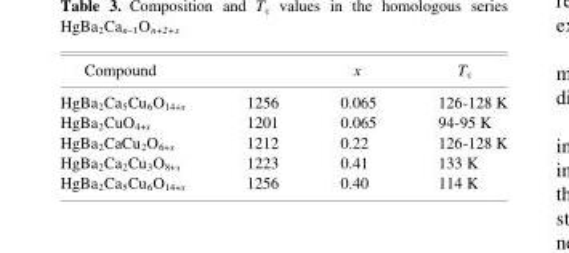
<table><thead><tr><td>Compound</td><td></td><td>x</td><td>T<sub>c</sub></td></tr></thead><tbody><tr><td>HgBa<sub>2</sub>Ca<sub>5</sub>Cu<sub>6</sub>O<sub>14+x</sub></td><td>1256</td><td>0.065</td><td>126-128 K</td></tr><tr><td>HgBa<sub>2</sub>CuO<sub>4+x</sub></td><td>1201</td><td>0.065</td><td>94-95 K</td></tr><tr><td>HgBa<sub>2</sub>CaCu<sub>2</sub>O<sub>6+x</sub></td><td>1212</td><td>0.22</td><td>126-128 K</td></tr><tr><td>HgBa<sub>2</sub>Ca<sub>2</sub>Cu<sub>3</sub>O<sub>8+x</sub></td><td>1223</td><td>0.41</td><td>133 K</td></tr><tr><td>HgBa<sub>2</sub>Ca<sub>5</sub>Cu<sub>6</sub>O<sub>14+x</sub></td><td>1256</td><td>0.40</td><td>114 K</td></tr></tbody></table>